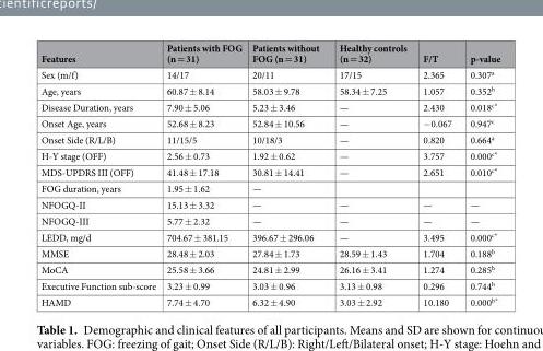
<table><thead><tr><td>Features</td><td>Patients with FOG (n = 31)</td><td>Patients without FOG (n = 31)</td><td>Healthy controls (n = 32)</td><td>F/T</td><td>p-value</td></tr></thead><tbody><tr><td>Sex (m/f)</td><td>14/17</td><td>20/11</td><td>17/15</td><td>2.365</td><td>0.307<sup>a</sup></td></tr><tr><td>Age, years</td><td>60.87 ± 8.14</td><td>58.03 ± 9.78</td><td>58.34 ± 7.25</td><td>1.057</td><td>0.352<sup>b</sup></td></tr><tr><td>Disease Duration, years</td><td>7.90 ± 5.06</td><td>5.23 ± 3.46</td><td>—</td><td>2.430</td><td>0.018<sup>c*</sup></td></tr><tr><td>Onset Age, years</td><td>52.68 ± 8.23</td><td>52.84 ± 10.56</td><td>—</td><td>−0.067</td><td>0.947<sup>c</sup></td></tr><tr><td>Onset Side (R/L/B)</td><td>11/15/5</td><td>10/18/3</td><td>—</td><td>0.820</td><td>0.664<sup>a</sup></td></tr><tr><td>H-Y stage (OFF)</td><td>2.56 ± 0.73</td><td>1.92 ± 0.62</td><td>—</td><td>3.757</td><td>0.000<sup>c*</sup></td></tr><tr><td>MDS-UPDRS III (OFF)</td><td>41.48 ± 17.18</td><td>30.81 ± 14.41</td><td>—</td><td>2.651</td><td>0.010<sup>c*</sup></td></tr><tr><td>FOG duration, years</td><td>1.95 ± 1.62</td><td>—</td><td></td><td></td><td></td></tr><tr><td>NFOGQ-II</td><td>15.13 ± 3.32</td><td>—</td><td>—</td><td>—</td><td>—</td></tr><tr><td>NFOGQ-III</td><td>5.77 ± 2.32</td><td>—</td><td>—</td><td>—</td><td>—</td></tr><tr><td>LEDD, mg/d</td><td>704.67 ± 381.15</td><td>396.67 ± 296.06</td><td>—</td><td>3.495</td><td>0.000<sup>c*</sup></td></tr><tr><td>MMSE</td><td>28.48 ± 2.03</td><td>27.84 ± 1.73</td><td>28.59 ± 1.43</td><td>1.704</td><td>0.188<sup>b</sup></td></tr><tr><td>MoCA</td><td>25.58 ± 3.66</td><td>24.81 ± 2.99</td><td>26.16 ± 3.41</td><td>1.274</td><td>0.285<sup>b</sup></td></tr><tr><td>Executive Function sub-score</td><td>3.23 ± 0.99</td><td>3.03 ± 0.96</td><td>3.13 ± 0.98</td><td>0.296</td><td>0.744<sup>b</sup></td></tr><tr><td>HAMD</td><td>7.74 ± 4.70</td><td>6.32 ± 4.90</td><td>3.03 ± 2.92</td><td>10.180</td><td>0.000<sup>b*</sup></td></tr></tbody></table>